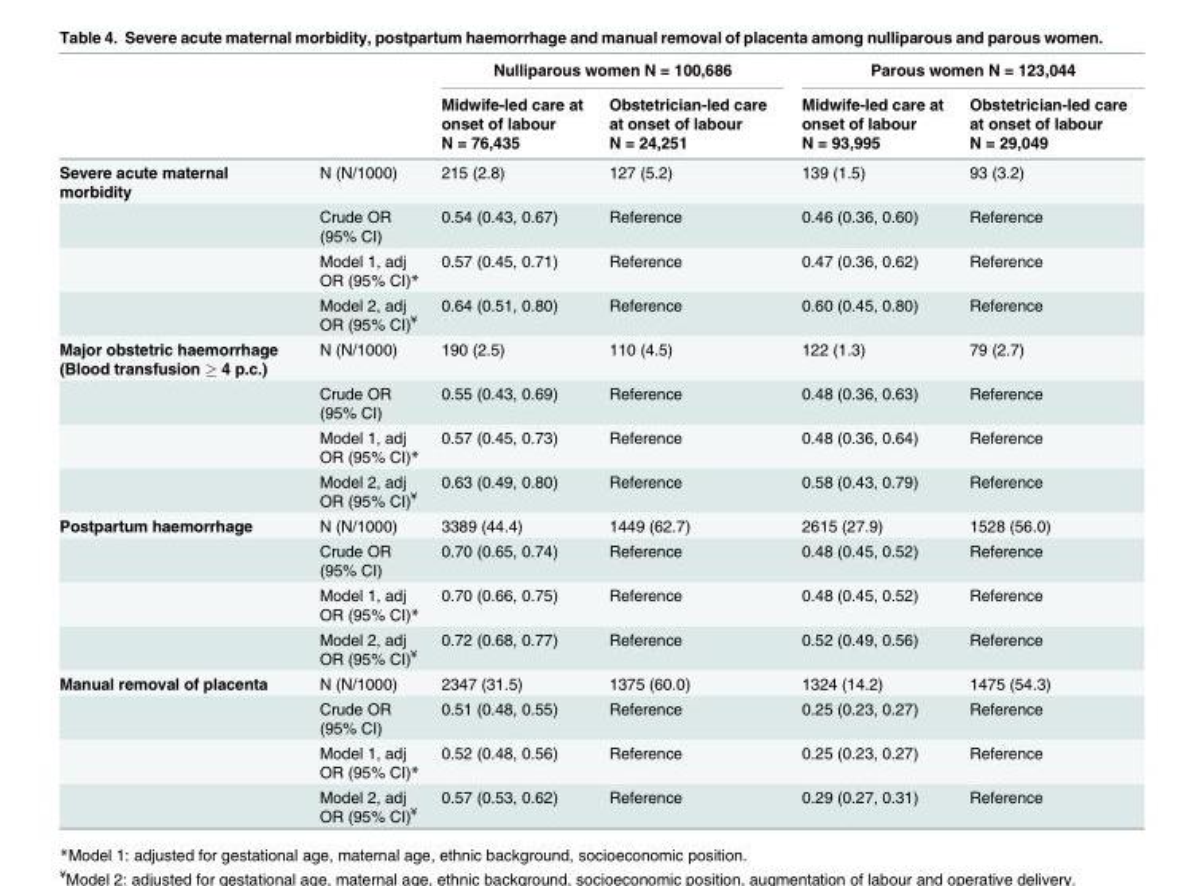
<table><thead><tr><td rowspan="3"></td><td rowspan="3"></td><td colspan="2">Nulliparous women N = 100,686</td><td colspan="2">Parous women N = 123,044</td></tr><tr><td rowspan="2">Midwife-led care at onset of labour N = 76,435</td><td rowspan="2">Obstetrician-led care at onset of labour N = 24,251</td><td rowspan="2">Midwife-led care at onset of labour N = 93,995</td><td rowspan="2">Obstetrician-led care at onset of labour N = 29,049</td></tr><tr></tr></thead><tbody><tr><td rowspan="4">Severe acute maternal morbidity</td><td>N (N/1000)</td><td>215 (2.8)</td><td>127 (5.2)</td><td>139 (1.5)</td><td>93 (3.2)</td></tr><tr><td>Crude OR (95% CI)</td><td>0.54 (0.43, 0.67)</td><td>Reference</td><td>0.46 (0.36, 0.60)</td><td>Reference</td></tr><tr><td>Model 1, adj OR (95% CI)*</td><td>0.57 (0.45, 0.71)</td><td>Reference</td><td>0.47 (0.36, 0.62)</td><td>Reference</td></tr><tr><td>Model 2, adj OR (95% CI)<sup>¥</sup></td><td>0.64 (0.51, 0.80)</td><td>Reference</td><td>0.60 (0.45, 0.80)</td><td>Reference</td></tr><tr><td rowspan="4">Major obstetric haemorrhage (Blood transfusion ≥ 4 p.c.)</td><td>N (N/1000)</td><td>190 (2.5)</td><td>110 (4.5)</td><td>122 (1.3)</td><td>79 (2.7)</td></tr><tr><td>Crude OR (95% CI)</td><td>0.55 (0.43, 0.69)</td><td>Reference</td><td>0.48 (0.36, 0.63)</td><td>Reference</td></tr><tr><td>Model 1, adj OR (95% CI)*</td><td>0.57 (0.45, 0.73)</td><td>Reference</td><td>0.48 (0.36, 0.64)</td><td>Reference</td></tr><tr><td>Model 2, adj OR (95% CI)<sup>¥</sup></td><td>0.63 (0.49, 0.80)</td><td>Reference</td><td>0.58 (0.43, 0.79)</td><td>Reference</td></tr><tr><td rowspan="4">Postpartum haemorrhage</td><td>N (N/1000)</td><td>3389 (44.4)</td><td>1449 (62.7)</td><td>2615 (27.9)</td><td>1528 (56.0)</td></tr><tr><td>Crude OR (95% CI)</td><td>0.70 (0.65, 0.74)</td><td>Reference</td><td>0.48 (0.45, 0.52)</td><td>Reference</td></tr><tr><td>Model 1, adj OR (95% CI)*</td><td>0.70 (0.66, 0.75)</td><td>Reference</td><td>0.48 (0.45, 0.52)</td><td>Reference</td></tr><tr><td>Model 2, adj OR (95% CI)<sup>¥</sup></td><td>0.72 (0.68, 0.77)</td><td>Reference</td><td>0.52 (0.49, 0.56)</td><td>Reference</td></tr><tr><td rowspan="4">Manual removal of placenta</td><td>N (N/1000)</td><td>2347 (31.5)</td><td>1375 (60.0)</td><td>1324 (14.2)</td><td>1475 (54.3)</td></tr><tr><td>Crude OR (95% CI)</td><td>0.51 (0.48, 0.55)</td><td>Reference</td><td>0.25 (0.23, 0.27)</td><td>Reference</td></tr><tr><td>Model 1, adj OR (95% CI)*</td><td>0.52 (0.48, 0.56)</td><td>Reference</td><td>0.25 (0.23, 0.27)</td><td>Reference</td></tr><tr><td>Model 2, adj OR (95% CI)<sup>¥</sup></td><td>0.57 (0.53, 0.62)</td><td>Reference</td><td>0.29 (0.27, 0.31)</td><td>Reference</td></tr></tbody></table>